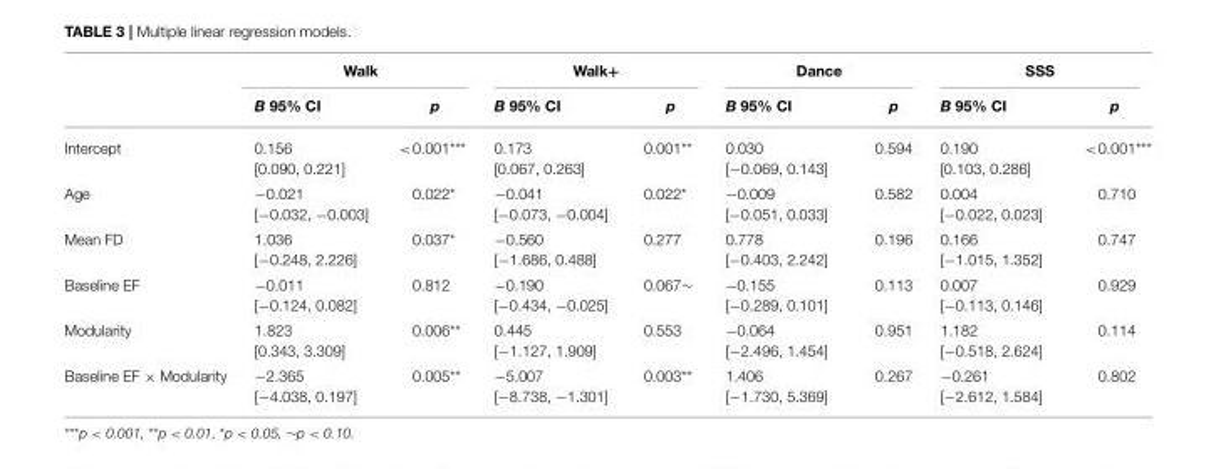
<table><thead><tr><td rowspan="2"></td><td colspan="2">Walk</td><td colspan="2">Walk+</td><td colspan="2">Dance</td><td colspan="2">SSS</td></tr><tr><td>B 95% CI</td><td>p</td><td>B 95% CI</td><td>p</td><td>B 95% CI</td><td>p</td><td>B 95% CI</td><td>p</td></tr></thead><tbody><tr><td>Intercept</td><td>0.156 [0.090, 0.221]</td><td>&lt;0.001***</td><td>0.173 [0.067, 0.263]</td><td>0.001**</td><td>0.030 [−0.069, 0.143]</td><td>0.594</td><td>0.190 [0.103, 0.286]</td><td>&lt;0.001***</td></tr><tr><td>Age</td><td>−0.021 [−0.032, −0.003]</td><td>0.022*</td><td>−0.041 [−0.073, −0.004]</td><td>0.022*</td><td>−0.009 [−0.051, 0.033]</td><td>0.582</td><td>0.004 [−0.022, 0.023]</td><td>0.710</td></tr><tr><td>Mean FD</td><td>1.036 [−0.248, 2.226]</td><td>0.037*</td><td>−0.560 [−1.686, 0.488]</td><td>0.277</td><td>0.778 [−0.403, 2.242]</td><td>0.196</td><td>0.166 [−1.015, 1.352]</td><td>0.747</td></tr><tr><td>Baseline EF</td><td>−0.011 [−0.124, 0.082]</td><td>0.812</td><td>−0.190 [−0.434, −0.025]</td><td>0.067∼</td><td>−0.155 [−0.289, 0.101]</td><td>0.113</td><td>0.007 [−0.113, 0.146]</td><td>0.929</td></tr><tr><td>Modularity</td><td>1.823 [0.343, 3.309]</td><td>0.006**</td><td>0.445 [−1.127, 1.909]</td><td>0.553</td><td>−0.064 [−2.496, 1.454]</td><td>0.951</td><td>1.182 [−0.518, 2.624]</td><td>0.114</td></tr><tr><td>Baseline EF × Modularity</td><td>−2.365 [−4.038, 0.197]</td><td>0.005**</td><td>−5.007 [−8.738, −1.301]</td><td>0.003**</td><td>1.406 [−1.730, 5.369]</td><td>0.267</td><td>−0.261 [−2.612, 1.584]</td><td>0.802</td></tr></tbody></table>